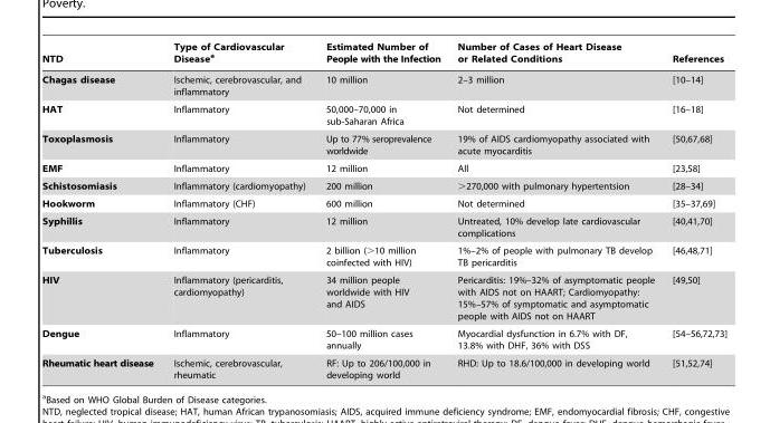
<table><thead><tr><td>NTD</td><td>Type of Cardiovascular Disease<sup>a</sup></td><td>Estimated Number of People with the Infection</td><td>Number of Cases of Heart Disease or Related Conditions</td><td>References</td></tr></thead><tbody><tr><td>Chagas disease</td><td>Ischemic, cerebrovascular, and inflammatory</td><td>10 million</td><td>2–3 million</td><td>[10–14]</td></tr><tr><td>HAT</td><td>Inflammatory</td><td>50,000–70,000 in sub-Saharan Africa</td><td>Not determined</td><td>[16–18]</td></tr><tr><td>Toxoplasmosis</td><td>Inflammatory</td><td>Up to 77% seroprevalence worldwide</td><td>19% of AIDS cardiomyopathy associated with acute myocarditis</td><td>[50,67,68]</td></tr><tr><td>EMF</td><td>Inflammatory</td><td>12 million</td><td>All</td><td>[23,58]</td></tr><tr><td>Schistosomiasis</td><td>Inflammatory (cardiomyopathy)</td><td>200 million</td><td>&gt;270,000 with pulmonary hypertentsion</td><td>[28–34]</td></tr><tr><td>Hookworm</td><td>Inflammatory (CHF)</td><td>600 million</td><td>Not determined</td><td>[35–37,69]</td></tr><tr><td>Syphillis</td><td>Inflammatory</td><td>12 million</td><td>Untreated, 10% develop late cardiovascular complications</td><td>[40,41,70]</td></tr><tr><td>Tuberculosis</td><td>Inflammatory</td><td>2 billion (&gt;10 million coinfected with HIV)</td><td>1%–2% of people with pulmonary TB develop TB pericarditis</td><td>[46,48,71]</td></tr><tr><td>HIV</td><td>Inflammatory (pericarditis, cardiomyopathy)</td><td>34 million people worldwide with HIV and AIDS</td><td>Pericarditis: 19%–32% of asymptomatic people with AIDS not on HAART; Cardiomyopathy: 15%–57% of symptomatic and asymptomatic people with AIDS not on HAART</td><td>[49,50]</td></tr><tr><td>Dengue</td><td>Inflammatory</td><td>50–100 million cases annually</td><td>Myocardial dysfunction in 6.7% with DF, 13.8% with DHF, 36% with DSS</td><td>[54–56,72,73]</td></tr><tr><td>Rheumatic heart disease</td><td>Ischemic, cerebrovascular, rheumatic</td><td>RF: Up to 206/100,000 in developing world</td><td>RHD: Up to 18.6/100,000 in developing world</td><td>[51,52,74]</td></tr></tbody></table>